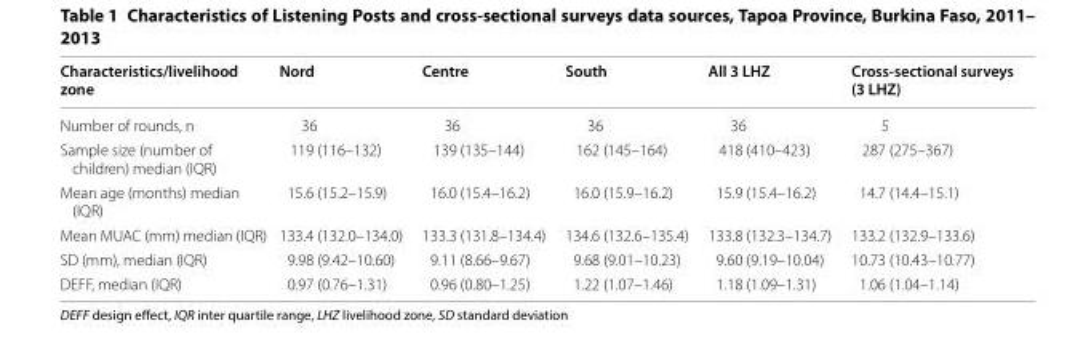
<table><thead><tr><td>Characteristics/livelihood zone</td><td>Nord</td><td>Centre</td><td>South</td><td>All 3 LHZ</td><td>Cross‑sectional surveys (3 LHZ)</td></tr></thead><tbody><tr><td>Number of rounds, n</td><td>36</td><td>36</td><td>36</td><td>36</td><td>5</td></tr><tr><td>Sample size (number of children) median (IQR)</td><td>119 (116–132)</td><td>139 (135–144)</td><td>162 (145–164)</td><td>418 (410–423)</td><td>287 (275–367)</td></tr><tr><td>Mean age (months) median (IQR)</td><td>15.6 (15.2–15.9)</td><td>16.0 (15.4–16.2)</td><td>16.0 (15.9–16.2)</td><td>15.9 (15.4–16.2)</td><td>14.7 (14.4–15.1)</td></tr><tr><td>Mean MUAC (mm) median (IQR)</td><td>133.4 (132.0–134.0)</td><td>133.3 (131.8–134.4)</td><td>134.6 (132.6–135.4)</td><td>133.8 (132.3–134.7)</td><td>133.2 (132.9–133.6)</td></tr><tr><td>SD (mm), median (IQR)</td><td>9.98 (9.42–10.60)</td><td>9.11 (8.66–9.67)</td><td>9.68 (9.01–10.23)</td><td>9.60 (9.19–10.04)</td><td>10.73 (10.43–10.77)</td></tr><tr><td>DEFF, median (IQR)</td><td>0.97 (0.76–1.31)</td><td>0.96 (0.80–1.25)</td><td>1.22 (1.07–1.46)</td><td>1.18 (1.09–1.31)</td><td>1.06 (1.04–1.14)</td></tr></tbody></table>